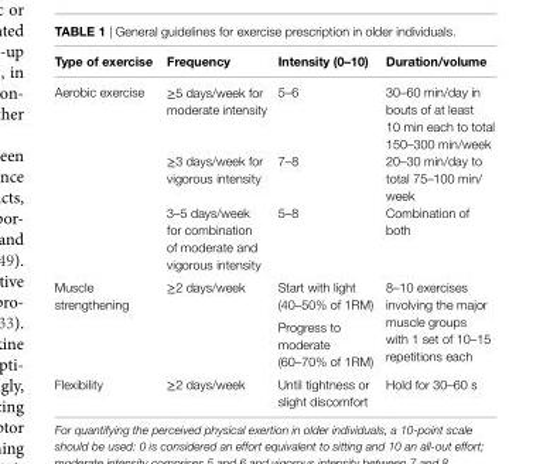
<table><thead><tr><td>Type of exercise</td><td>Frequency</td><td>intensity (0–10)</td><td>Duration/volume</td></tr></thead><tbody><tr><td rowspan="3">Aerobic exercise</td><td>≥5 days/week for moderate intensity</td><td>5–6</td><td>30–60 min/day in bouts of at least 10 min each to total 150–300 min/week</td></tr><tr><td>≥3 days/week for vigorous intensity</td><td>7–8</td><td>20–30 min/day to total 75–100 min/ week</td></tr><tr><td>3–5 days/week for combination of moderate and vigorous intensity</td><td>5–8</td><td>Combination of both</td></tr><tr><td rowspan="2">Muscle strengthening</td><td rowspan="2">≥2 days/week</td><td>Start with light (40–50% of 1RM)</td><td rowspan="2">8–10 exercises involving the major muscle groups with 1 set of 10–15 repetitions each</td></tr><tr><td>Progress to moderate (60–70% of 1RM)</td></tr><tr><td>Flexibility</td><td>≥2 days/week</td><td>Until tightness or slight discomfort</td><td>Hold for 30–60 s</td></tr></tbody></table>